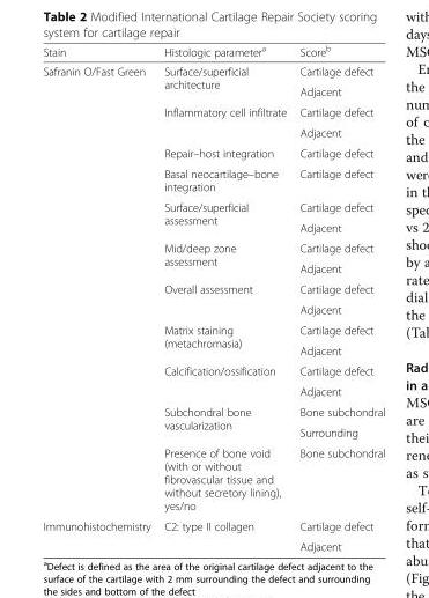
<table><thead><tr><td>Stain</td><td>Histologic parameter<sup>a</sup></td><td>Score<sup>b</sup></td></tr></thead><tbody><tr><td rowspan="19">Safranin O/Fast Green</td><td rowspan="2">Surface/superficial architecture</td><td>Cartilage defect</td></tr><tr><td>Adjacent</td></tr><tr><td rowspan="2">Inflammatory cell infiltrate</td><td>Cartilage defect</td></tr><tr><td>Adjacent</td></tr><tr><td>Repair–host integration</td><td>Cartilage defect</td></tr><tr><td>Basal neocartilage–bone integration</td><td>Cartilage defect</td></tr><tr><td rowspan="2">Surface/superficial assessment</td><td>Cartilage defect</td></tr><tr><td>Adjacent</td></tr><tr><td rowspan="2">Mid/deep zone assessment</td><td>Cartilage defect</td></tr><tr><td>Adjacent</td></tr><tr><td rowspan="2">Overall assessment</td><td>Cartilage defect</td></tr><tr><td>Adjacent</td></tr><tr><td rowspan="2">Matrix staining (metachromasia)</td><td>Cartilage defect</td></tr><tr><td>Adjacent</td></tr><tr><td rowspan="2">Calcification/ossification</td><td>Cartilage defect</td></tr><tr><td>Adjacent</td></tr><tr><td rowspan="2">Subchondral bone vascularization</td><td>Bone subchondral</td></tr><tr><td>Surrounding</td></tr><tr><td>Presence of bone void (with or without fibrovascular tissue and without secretory lining), yes/no</td><td>Bone subchondral</td></tr><tr><td rowspan="2">Immunohistochemistry</td><td rowspan="2">C2: type II collagen</td><td>Cartilage defect</td></tr><tr><td>Adjacent</td></tr></tbody></table>